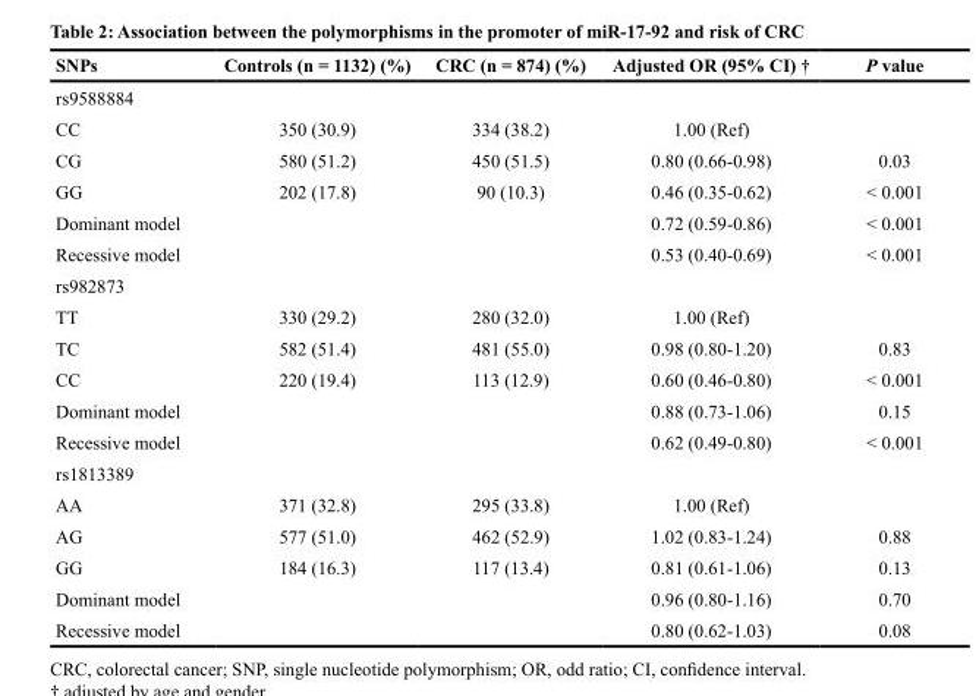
<table><thead><tr><td>SNPs</td><td>Controls (n = 1132) (%)</td><td>CRC (n = 874) (%)</td><td>Adjusted OR (95% CI) †</td><td>P value</td></tr></thead><tbody><tr><td colspan="5">rs9588884</td></tr><tr><td>CC</td><td>350 (30.9)</td><td>334 (38.2)</td><td>1.00 (Ref)</td><td></td></tr><tr><td>CG</td><td>580 (51.2)</td><td>450 (51.5)</td><td>0.80 (0.66-0.98)</td><td>0.03</td></tr><tr><td>GG</td><td>202 (17.8)</td><td>90 (10.3)</td><td>0.46 (0.35-0.62)</td><td>&lt; 0.001</td></tr><tr><td>Dominant model</td><td></td><td></td><td>0.72 (0.59-0.86)</td><td>&lt; 0.001</td></tr><tr><td>Recessive model</td><td></td><td></td><td>0.53 (0.40-0.69)</td><td>&lt; 0.001</td></tr><tr><td colspan="5">rs982873</td></tr><tr><td>TT</td><td>330 (29.2)</td><td>280 (32.0)</td><td>1.00 (Ref)</td><td></td></tr><tr><td>TC</td><td>582 (51.4)</td><td>481 (55.0)</td><td>0.98 (0.80-1.20)</td><td>0.83</td></tr><tr><td>CC</td><td>220 (19.4)</td><td>113 (12.9)</td><td>0.60 (0.46-0.80)</td><td>&lt; 0.001</td></tr><tr><td>Dominant model</td><td></td><td></td><td>0.88 (0.73-1.06)</td><td>0.15</td></tr><tr><td>Recessive model</td><td></td><td></td><td>0.62 (0.49-0.80)</td><td>&lt; 0.001</td></tr><tr><td colspan="5">rs1813389</td></tr><tr><td>AA</td><td>371 (32.8)</td><td>295 (33.8)</td><td>1.00 (Ref)</td><td></td></tr><tr><td>AG</td><td>577 (51.0)</td><td>462 (52.9)</td><td>1.02 (0.83-1.24)</td><td>0.88</td></tr><tr><td>GG</td><td>184 (16.3)</td><td>117 (13.4)</td><td>0.81 (0.61-1.06)</td><td>0.13</td></tr><tr><td>Dominant model</td><td></td><td></td><td>0.96 (0.80-1.16)</td><td>0.70</td></tr><tr><td>Recessive model</td><td></td><td></td><td>0.80 (0.62-1.03)</td><td>0.08</td></tr></tbody></table>